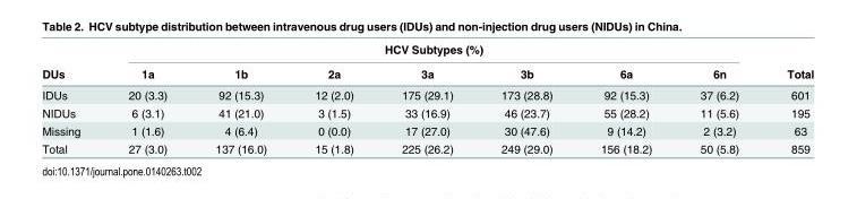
<table><thead><tr><td rowspan="2">DUs</td><td colspan="7">HCV Subtypes (%)</td><td rowspan="2">Total</td></tr><tr><td>1a</td><td>1b</td><td>2a</td><td>3a</td><td>3b</td><td>6a</td><td>6n</td></tr></thead><tbody><tr><td>IDUs</td><td>20 (3.3)</td><td>92 (15.3)</td><td>12 (2.0)</td><td>175 (29.1)</td><td>173 (28.8)</td><td>92 (15.3)</td><td>37 (6.2)</td><td>601</td></tr><tr><td>NIDUs</td><td>6 (3.1)</td><td>41 (21.0)</td><td>3 (1.5)</td><td>33 (16.9)</td><td>46 (23.7)</td><td>55 (28.2)</td><td>11 (5.6)</td><td>195</td></tr><tr><td>Missing</td><td>1 (1.6)</td><td>4 (6.4)</td><td>0 (0.0)</td><td>17 (27.0)</td><td>30 (47.6)</td><td>9 (14.2)</td><td>2 (3.2)</td><td>63</td></tr><tr><td>Total</td><td>27 (3.0)</td><td>137 (16.0)</td><td>15 (1.8)</td><td>225 (26.2)</td><td>249 (29.0)</td><td>156 (18.2)</td><td>50 (5.8)</td><td>859</td></tr></tbody></table>